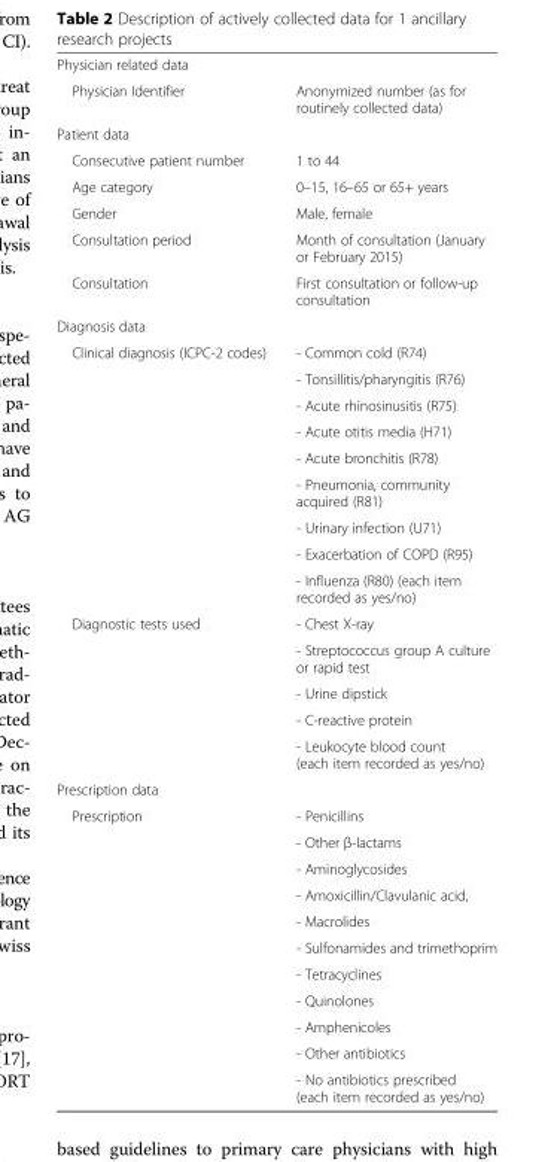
<table><tbody><tr><td colspan="2">Physician related data</td></tr><tr><td>Physician Identifier</td><td>Anonymized number (as for routinely collected data)</td></tr><tr><td colspan="2">Patient data</td></tr><tr><td>Consecutive patient number</td><td>1 to 44</td></tr><tr><td>Age category</td><td>0–15, 16–65 or 65+ years</td></tr><tr><td>Gender</td><td>Male, female</td></tr><tr><td>Consultation period</td><td>Month of consultation (January or February 2015)</td></tr><tr><td>Consultation</td><td>First consultation or follow-up consultation</td></tr><tr><td colspan="2">Diagnosis data</td></tr><tr><td rowspan="9">Clinical diagnosis (ICPC-2 codes)</td><td>- Common cold (R74)</td></tr><tr><td>- Tonsillitis/pharyngitis (R76)</td></tr><tr><td>- Acute rhinosinusitis (R75)</td></tr><tr><td>- Acute otitis media (H71)</td></tr><tr><td>- Acute bronchitis (R78)</td></tr><tr><td>- Pneumonia, community acquired (R81)</td></tr><tr><td>- Urinary infection (U71)</td></tr><tr><td>- Exacerbation of COPD (R95)</td></tr><tr><td>- Influenza (R80) (each item recorded as yes/no)</td></tr><tr><td rowspan="5">Diagnostic tests used</td><td>- Chest X-ray</td></tr><tr><td>- Streptococcus group A culture or rapid test</td></tr><tr><td>- Urine dipstick</td></tr><tr><td>- C-reactive protein</td></tr><tr><td>- Leukocyte blood count (each item recorded as yes/no)</td></tr><tr><td colspan="2">Prescription data</td></tr><tr><td rowspan="11">Prescription</td><td>- Penicillins</td></tr><tr><td>- Other β-lactams</td></tr><tr><td>- Aminoglycosides</td></tr><tr><td>- Amoxicillin/Clavulanic acid,</td></tr><tr><td>- Macrolides</td></tr><tr><td>- Sulfonamides and trimethoprim</td></tr><tr><td>- Tetracyclines</td></tr><tr><td>- Quinolones</td></tr><tr><td>- Amphenicoles</td></tr><tr><td>- Other antibiotics</td></tr><tr><td>- No antibiotics prescribed (each item recorded as yes/no)</td></tr></tbody></table>